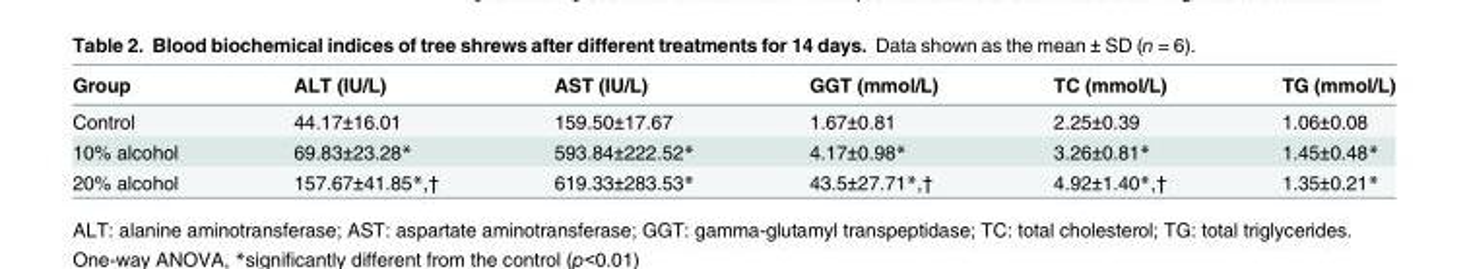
<table><thead><tr><td>Group</td><td>ALT (IU/L)</td><td>AST (IU/L)</td><td>GGT (mmol/L)</td><td>TC (mmol/L)</td><td>TG (mmol/L)</td></tr></thead><tbody><tr><td>Control</td><td>44.17±16.01</td><td>159.50±17.67</td><td>1.67±0.81</td><td>2.25±0.39</td><td>1.06±0.08</td></tr><tr><td>10% alcohol</td><td>69.83±23.28*</td><td>593.84±222.52*</td><td>4.17±0.98*</td><td>3.26±0.81*</td><td>1.45±0.48*</td></tr><tr><td>20% alcohol</td><td>157.67±41.85*,†</td><td>619.33±283.53*</td><td>43.5±27.71*,†</td><td>4.92±1.40*,†</td><td>1.35±0.21*</td></tr></tbody></table>